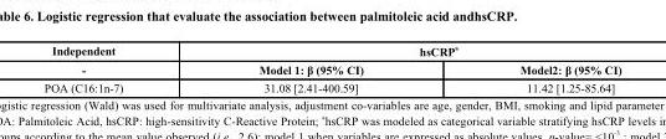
<table><thead><tr><td rowspan="2">Independent -</td><td colspan="2">hsCRP <sup>a</sup></td></tr><tr><td>Model 1: β (95% CI)</td><td>Model2: β (95% CI)</td></tr></thead><tbody><tr><td>POA (C16:1n-7)</td><td>31.08 [2.41-400.59]</td><td>11.42 [1.25-85.64]</td></tr></tbody></table>